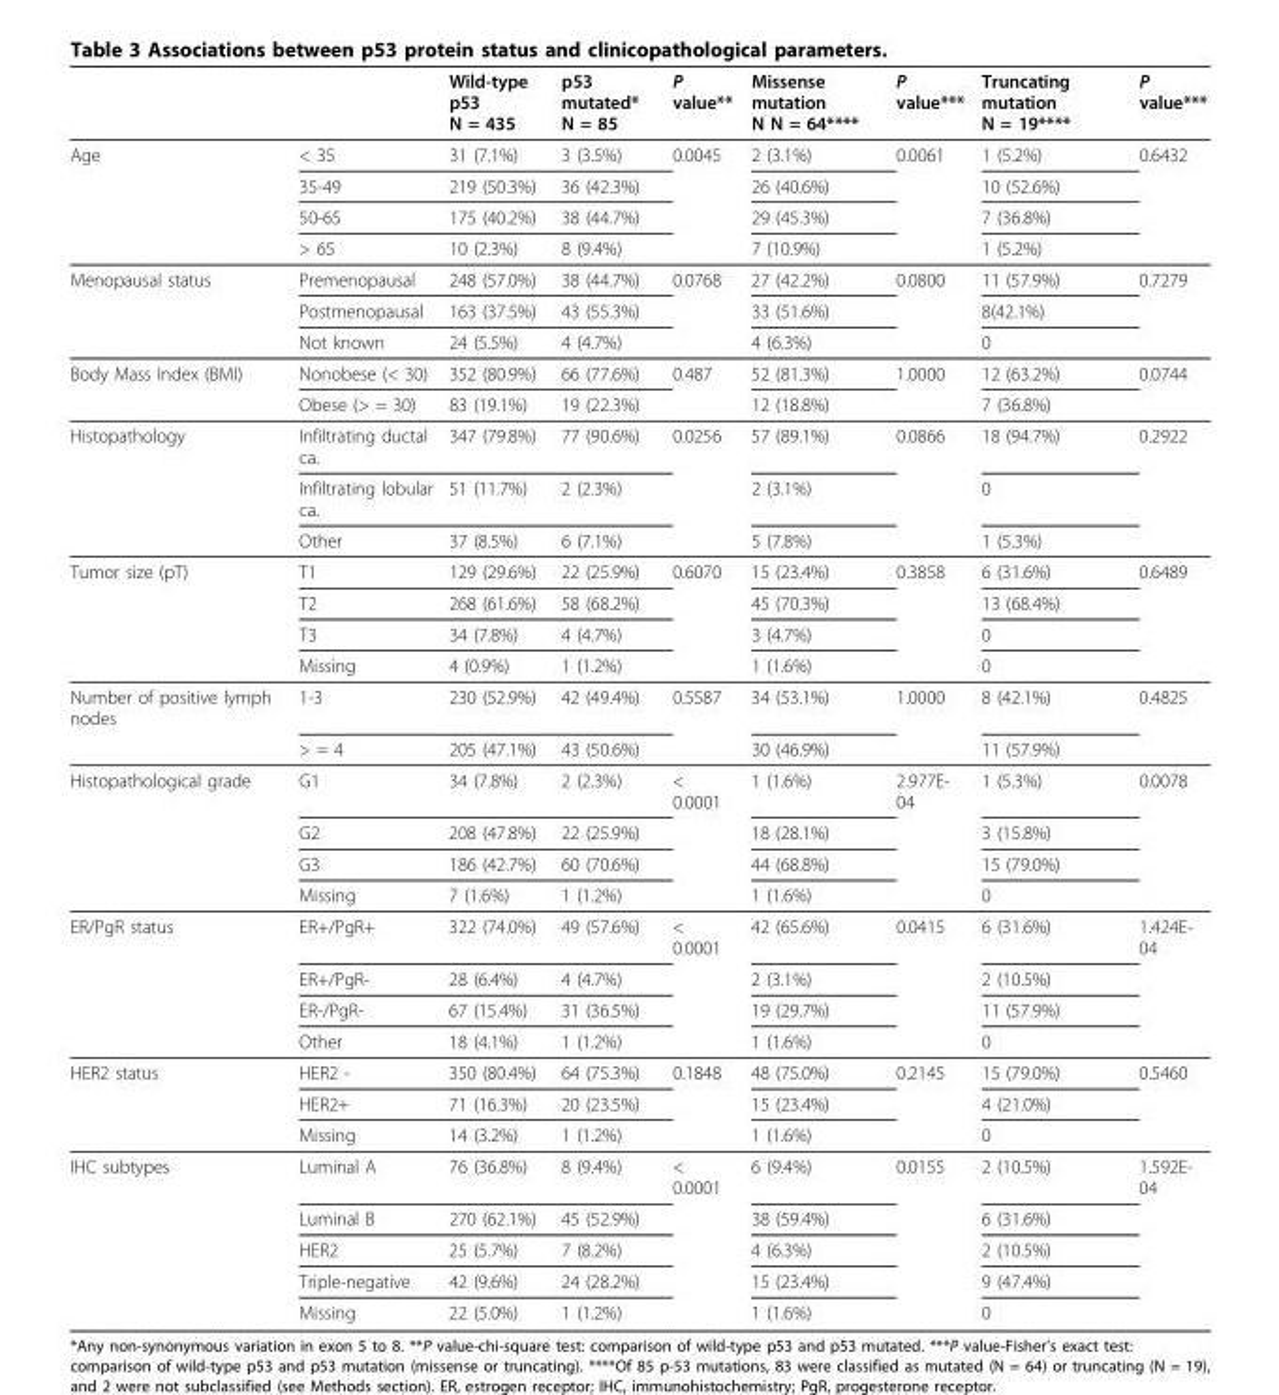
<table><thead><tr><td></td><td></td><td>Wild-type p53 N = 435</td><td>p53 mutated* N = 85</td><td>P value**</td><td>Missense mutation N N = 64****</td><td>P value***</td><td>Truncating mutation N = 19****</td><td>P value***</td></tr></thead><tbody><tr><td rowspan="4">Age</td><td>&lt; 35</td><td>31 (7.1%)</td><td>3 (3.5%)</td><td>0.0045</td><td>2 (3.1%)</td><td>0.0061</td><td>1 (5.2%)</td><td>0.6432</td></tr><tr><td>35-49</td><td>219 (50.3%)</td><td>36 (42.3%)</td><td></td><td>26 (40.6%)</td><td></td><td>10 (52.6%)</td><td></td></tr><tr><td>50-65</td><td>175 (40.2%)</td><td>38 (44.7%)</td><td></td><td>29 (45.3%)</td><td></td><td>7 (36.8%)</td><td></td></tr><tr><td>&gt; 65</td><td>10 (2.3%)</td><td>8 (9.4%)</td><td></td><td>7 (10.9%)</td><td></td><td>1 (5.2%)</td><td></td></tr><tr><td rowspan="3">Menopausal status</td><td>Premenopausal</td><td>248 (57.0%)</td><td>38 (44.7%)</td><td>0.0768</td><td>27 (42.2%)</td><td>0.0800</td><td>11 (57.9%)</td><td>0.7279</td></tr><tr><td>Postmenopausal</td><td>163 (37.5%)</td><td>43 (55.3%)</td><td></td><td>33 (51.6%)</td><td></td><td>8(42.1%)</td><td></td></tr><tr><td>Not known</td><td>24 (5.5%)</td><td>4 (4.7%)</td><td></td><td>4 (6.3%)</td><td></td><td>0</td><td></td></tr><tr><td rowspan="2">Body Mass Index (BMI)</td><td>Nonobese (&lt; 30)</td><td>352 (80.9%)</td><td>66 (77.6%)</td><td>0.487</td><td>52 (81.3%)</td><td>1.0000</td><td>12 (63.2%)</td><td>0.0744</td></tr><tr><td>Obese (&gt; = 30)</td><td>83 (19.1%)</td><td>19 (22.3%)</td><td></td><td>12 (18.8%)</td><td></td><td>7 (36.8%)</td><td></td></tr><tr><td rowspan="3">Histopathology</td><td>Infiltrating ductal ca.</td><td>347 (79.8%)</td><td>77 (90.6%)</td><td>0.0256</td><td>57 (89.1%)</td><td>0.0866</td><td>18 (94.7%)</td><td>0.2922</td></tr><tr><td>Infiltrating lobular ca.</td><td>51 (11.7%)</td><td>2 (2.3%)</td><td></td><td>2 (3.1%)</td><td></td><td>0</td><td></td></tr><tr><td>Other</td><td>37 (8.5%)</td><td>6 (7.1%)</td><td></td><td>5 (7.8%)</td><td></td><td>1 (5.3%)</td><td></td></tr><tr><td rowspan="4">Tumor size (pT)</td><td>T1</td><td>129 (29.6%)</td><td>22 (25.9%)</td><td>0.6070</td><td>15 (23.4%)</td><td>0.3858</td><td>6 (31.6%)</td><td>0.6489</td></tr><tr><td>T2</td><td>268 (61.6%)</td><td>58 (68.2%)</td><td></td><td>45 (70.3%)</td><td></td><td>13 (68.4%)</td><td></td></tr><tr><td>T3</td><td>34 (7.8%)</td><td>4 (4.7%)</td><td></td><td>3 (4.7%)</td><td></td><td>0</td><td></td></tr><tr><td>Missing</td><td>4 (0.9%)</td><td>1 (1.2%)</td><td></td><td>1 (1.6%)</td><td></td><td>0</td><td></td></tr><tr><td rowspan="2">Number of positive lymph nodes</td><td>1-3</td><td>230 (52.9%)</td><td>42 (49.4%)</td><td>0.5587</td><td>34 (53.1%)</td><td>1.0000</td><td>8 (42.1%)</td><td>0.4825</td></tr><tr><td>&gt; = 4</td><td>205 (47.1%)</td><td>43 (50.6%)</td><td></td><td>30 (46.9%)</td><td></td><td>11 (57.9%)</td><td></td></tr><tr><td rowspan="4">Histopathological grade</td><td>G1</td><td>34 (7.8%)</td><td>2 (2.3%)</td><td>&lt; 0.0001</td><td>1 (1.6%)</td><td>2.977E- 04</td><td>1 (5.3%)</td><td>0.0078</td></tr><tr><td>G2</td><td>208 (47.8%)</td><td>22 (25.9%)</td><td></td><td>18 (28.1%)</td><td></td><td>3 (15.8%)</td><td></td></tr><tr><td>G3</td><td>186 (42.7%)</td><td>60 (70.6%)</td><td></td><td>44 (68.8%)</td><td></td><td>15 (79.0%)</td><td></td></tr><tr><td>Missing</td><td>7 (1.6%)</td><td>1 (1.2%)</td><td></td><td>1 (1.6%)</td><td></td><td>0</td><td></td></tr><tr><td rowspan="4">ER/PgR status</td><td>ER+/PgR+</td><td>322 (74.0%)</td><td>49 (57.6%)</td><td>&lt; 0.0001</td><td>42 (65.6%)</td><td>0.0415</td><td>6 (31.6%)</td><td>1.424E- 04</td></tr><tr><td>ER+/PgR-</td><td>28 (6.4%)</td><td>4 (4.7%)</td><td></td><td>2 (3.1%)</td><td></td><td>2 (10.5%)</td><td></td></tr><tr><td>ER-/PgR-</td><td>67 (15.4%)</td><td>31 (36.5%)</td><td></td><td>19 (29.7%)</td><td></td><td>11 (57.9%)</td><td></td></tr><tr><td>Other</td><td>18 (4.1%)</td><td>1 (1.2%)</td><td></td><td>1 (1.6%)</td><td></td><td>0</td><td></td></tr><tr><td rowspan="3">HER2 status</td><td>HER2 -</td><td>350 (80.4%)</td><td>64 (75.3%)</td><td>0.1848</td><td>48 (75.0%)</td><td>0.2145</td><td>15 (79.0%)</td><td>0.5460</td></tr><tr><td>HER2+</td><td>71 (16.3%)</td><td>20 (23.5%)</td><td></td><td>15 (23.4%)</td><td></td><td>4 (21.0%)</td><td></td></tr><tr><td>Missing</td><td>14 (3.2%)</td><td>1 (1.2%)</td><td></td><td>1 (1.6%)</td><td></td><td>0</td><td></td></tr><tr><td rowspan="5">IHC subtypes</td><td>Luminal A</td><td>76 (36.8%)</td><td>8 (9.4%)</td><td>&lt; 0.0001</td><td>6 (9.4%)</td><td>0.0155</td><td>2 (10.5%)</td><td>1.592E- 04</td></tr><tr><td>Luminal B</td><td>270 (62.1%)</td><td>45 (52.9%)</td><td></td><td>38 (59.4%)</td><td></td><td>6 (31.6%)</td><td></td></tr><tr><td>HER2</td><td>25 (5.7%)</td><td>7 (8.2%)</td><td></td><td>4 (6.3%)</td><td></td><td>2 (10.5%)</td><td></td></tr><tr><td>Triple-negative</td><td>42 (9.6%)</td><td>24 (28.2%)</td><td></td><td>15 (23.4%)</td><td></td><td>9 (47.4%)</td><td></td></tr><tr><td>Missing</td><td>22 (5.0%)</td><td>1 (1.2%)</td><td></td><td>1 (1.6%)</td><td></td><td>0</td><td></td></tr></tbody></table>